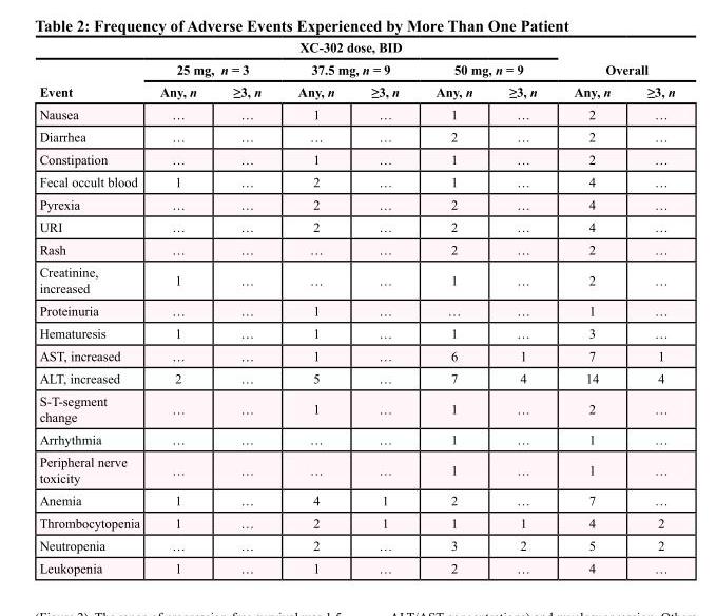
<table><thead><tr><td colspan="7">XC-302 dose, BID</td><td rowspan="2" colspan="2">Overall</td></tr><tr><td rowspan="2">Event</td><td colspan="2">25 mg, n = 3</td><td colspan="2">37.5 mg, n = 9</td><td colspan="2">50 mg, n = 9</td></tr><tr><td>Any, n</td><td>≥3, n</td><td>Any, n</td><td>≥3, n</td><td>Any, n</td><td>≥3, n</td><td>Any, n</td><td>≥3, n</td></tr></thead><tbody><tr><td>Nausea</td><td>…</td><td>…</td><td>1</td><td>…</td><td>1</td><td>…</td><td>2</td><td>…</td></tr><tr><td>Diarrhea</td><td>…</td><td>…</td><td>…</td><td>…</td><td>2</td><td>…</td><td>2</td><td>…</td></tr><tr><td>Constipation</td><td>…</td><td>…</td><td>1</td><td>…</td><td>1</td><td>…</td><td>2</td><td>…</td></tr><tr><td>Fecal occult blood</td><td>1</td><td>…</td><td>2</td><td>…</td><td>1</td><td>…</td><td>4</td><td>…</td></tr><tr><td>Pyrexia</td><td>…</td><td>…</td><td>2</td><td>…</td><td>2</td><td>…</td><td>4</td><td>…</td></tr><tr><td>URI</td><td>…</td><td>…</td><td>2</td><td>…</td><td>2</td><td>…</td><td>4</td><td>…</td></tr><tr><td>Rash</td><td>…</td><td>…</td><td>…</td><td>…</td><td>2</td><td>…</td><td>2</td><td>…</td></tr><tr><td>Creatinine, increased</td><td>1</td><td>…</td><td>…</td><td>…</td><td>1</td><td>…</td><td>2</td><td>…</td></tr><tr><td>Proteinuria</td><td>…</td><td>…</td><td>1</td><td>…</td><td>…</td><td>…</td><td>1</td><td>…</td></tr><tr><td>Hematuresis</td><td>1</td><td>…</td><td>1</td><td>…</td><td>1</td><td>…</td><td>3</td><td>…</td></tr><tr><td>AST, increased</td><td>…</td><td>…</td><td>1</td><td>…</td><td>6</td><td>1</td><td>7</td><td>1</td></tr><tr><td>ALT, increased</td><td>2</td><td>…</td><td>5</td><td>…</td><td>7</td><td>4</td><td>14</td><td>4</td></tr><tr><td>S-T-segment change</td><td>…</td><td>…</td><td>1</td><td>…</td><td>1</td><td>…</td><td>2</td><td>…</td></tr><tr><td>Arrhythmia</td><td>…</td><td>…</td><td>…</td><td>…</td><td>1</td><td>…</td><td>1</td><td>…</td></tr><tr><td>Peripheral nerve toxicity</td><td>…</td><td>…</td><td>…</td><td>…</td><td>1</td><td>…</td><td>1</td><td>…</td></tr><tr><td>Anemia</td><td>1</td><td>…</td><td>4</td><td>1</td><td>2</td><td>…</td><td>7</td><td>…</td></tr><tr><td>Thrombocytopenia</td><td>1</td><td>…</td><td>2</td><td>1</td><td>1</td><td>1</td><td>4</td><td>2</td></tr><tr><td>Neutropenia</td><td>…</td><td>…</td><td>2</td><td>…</td><td>3</td><td>2</td><td>5</td><td>2</td></tr><tr><td>Leukopenia</td><td>1</td><td>…</td><td>1</td><td>…</td><td>2</td><td>…</td><td>4</td><td>…</td></tr></tbody></table>